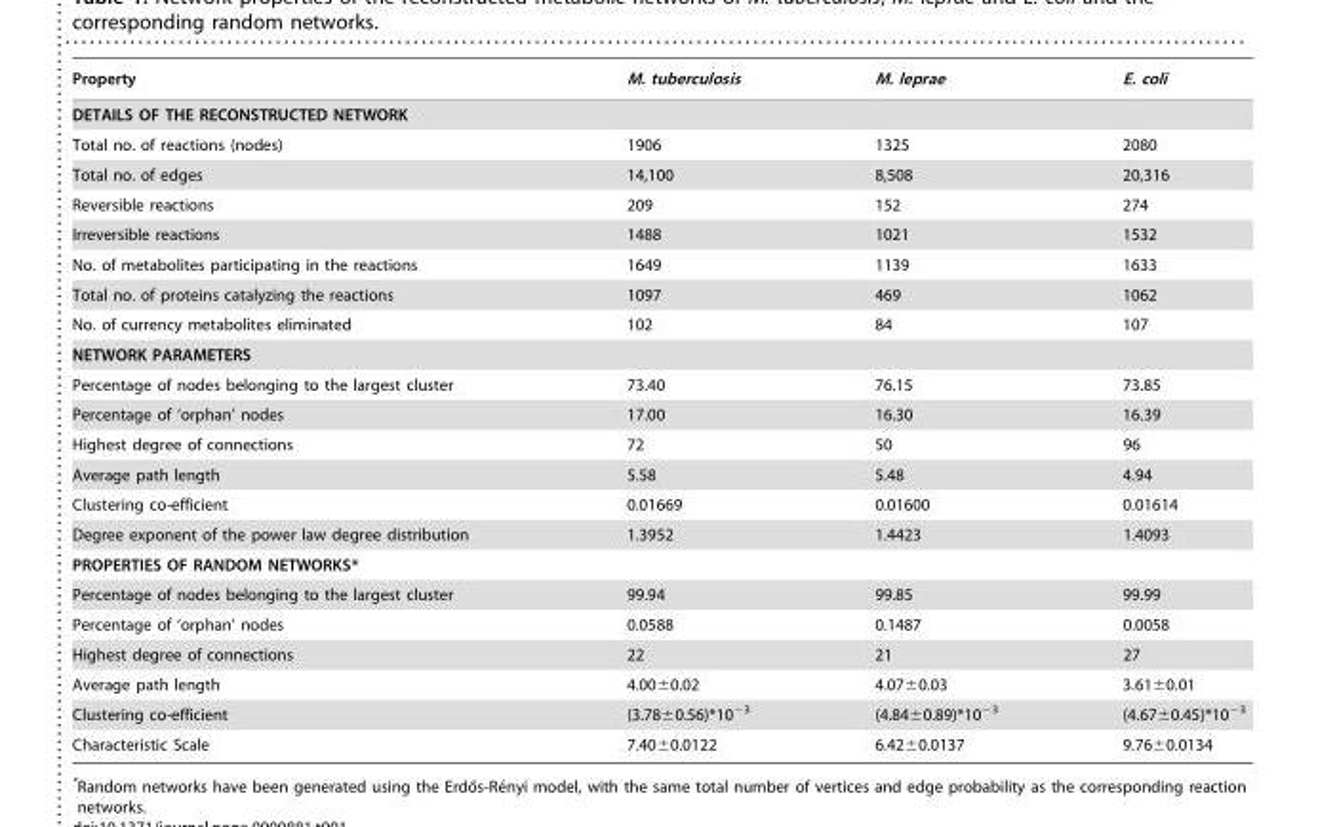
<table><thead><tr><td>Property</td><td>M. tuberculosis</td><td>M. leprae</td><td>E. coli</td></tr></thead><tbody><tr><td colspan="4">DETAILS OF THE RECONSTRUCTED NETWORK</td></tr><tr><td>Total no. of reactions (nodes)</td><td>1906</td><td>1325</td><td>2080</td></tr><tr><td>Total no. of edges</td><td>14,100</td><td>8,508</td><td>20,316</td></tr><tr><td>Reversible reactions</td><td>209</td><td>152</td><td>274</td></tr><tr><td>Irreversible reactions</td><td>1488</td><td>1021</td><td>1532</td></tr><tr><td>No. of metabolites participating in the reactions</td><td>1649</td><td>1139</td><td>1633</td></tr><tr><td>Total no. of proteins catalyzing the reactions</td><td>1097</td><td>469</td><td>1062</td></tr><tr><td>No. of currency metabolites eliminated</td><td>102</td><td>84</td><td>107</td></tr><tr><td colspan="4">NETWORK PARAMETERS</td></tr><tr><td>Percentage of nodes belonging to the largest cluster</td><td>73.40</td><td>76.15</td><td>73.85</td></tr><tr><td>Percentage of ‘orphan’ nodes</td><td>17.00</td><td>16.30</td><td>16.39</td></tr><tr><td>Highest degree of connections</td><td>72</td><td>50</td><td>96</td></tr><tr><td>Average path length</td><td>5.58</td><td>5.48</td><td>4.94</td></tr><tr><td>Clustering co-efficient</td><td>0.01669</td><td>0.01600</td><td>0.01614</td></tr><tr><td>Degree exponent of the power law degree distribution</td><td>1.3952</td><td>1.4423</td><td>1.4093</td></tr><tr><td colspan="4">PROPERTIES OF RANDOM NETWORKS*</td></tr><tr><td>Percentage of nodes belonging to the largest cluster</td><td>99.94</td><td>99.85</td><td>99.99</td></tr><tr><td>Percentage of ‘orphan’ nodes</td><td>0.0588</td><td>0.1487</td><td>0.0058</td></tr><tr><td>Highest degree of connections</td><td>22</td><td>21</td><td>27</td></tr><tr><td>Average path length</td><td>4.00±0.02</td><td>4.07±0.03</td><td>3.61±0.01</td></tr><tr><td>Clustering co-efficient</td><td>(3.78±0.56)*10<sup>−3</sup></td><td>(4.84±0.89)*10<sup>−3</sup></td><td>(4.67±0.45)*10<sup>−3</sup></td></tr><tr><td>Characteristic Scale</td><td>7.40±0.0122</td><td>6.42±0.0137</td><td>9.76±0.0134</td></tr></tbody></table>